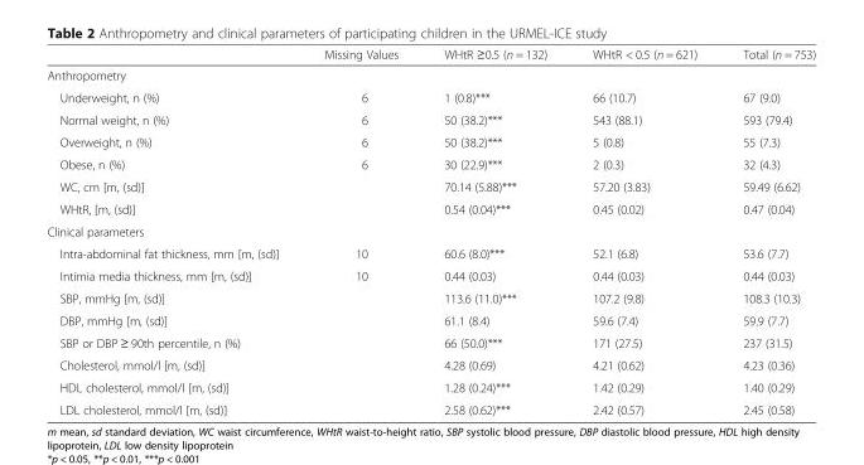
<table><thead><tr><td></td><td>Missing Values</td><td>WHtR ≥0.5 (n = 132)</td><td>WHtR &lt; 0.5 (n = 621)</td><td>Total (n = 753)</td></tr></thead><tbody><tr><td colspan="5">Anthropometry</td></tr><tr><td>Underweight, n (%)</td><td>6</td><td>1 (0.8)***</td><td>66 (10.7)</td><td>67 (9.0)</td></tr><tr><td>Normal weight, n (%)</td><td>6</td><td>50 (38.2)***</td><td>543 (88.1)</td><td>593 (79.4)</td></tr><tr><td>Overweight, n (%)</td><td>6</td><td>50 (38.2)***</td><td>5 (0.8)</td><td>55 (7.3)</td></tr><tr><td>Obese, n (%)</td><td>6</td><td>30 (22.9)***</td><td>2 (0.3)</td><td>32 (4.3)</td></tr><tr><td>WC, cm [m, (sd)]</td><td></td><td>70.14 (5.88)***</td><td>57.20 (3.83)</td><td>59.49 (6.62)</td></tr><tr><td>WHtR, [m, (sd)]</td><td></td><td>0.54 (0.04)***</td><td>0.45 (0.02)</td><td>0.47 (0.04)</td></tr><tr><td colspan="5">Clinical parameters</td></tr><tr><td>Intra-abdominal fat thickness, mm [m, (sd)]</td><td>10</td><td>60.6 (8.0)***</td><td>52.1 (6.8)</td><td>53.6 (7.7)</td></tr><tr><td>Intimia media thickness, mm [m, (sd)]</td><td>10</td><td>0.44 (0.03)</td><td>0.44 (0.03)</td><td>0.44 (0.03)</td></tr><tr><td>SBP, mmHg [m, (sd)]</td><td></td><td>113.6 (11.0)***</td><td>107.2 (9.8)</td><td>108.3 (10.3)</td></tr><tr><td>DBP, mmHg [m, (sd)]</td><td></td><td>61.1 (8.4)</td><td>59.6 (7.4)</td><td>59.9 (7.7)</td></tr><tr><td>SBP or DBP ≥ 90th percentile, n (%)</td><td></td><td>66 (50.0)***</td><td>171 (27.5)</td><td>237 (31.5)</td></tr><tr><td>Cholesterol, mmol/l [m, (sd)]</td><td></td><td>4.28 (0.69)</td><td>4.21 (0.62)</td><td>4.23 (0.36)</td></tr><tr><td>HDL cholesterol, mmol/l [m, (sd)]</td><td></td><td>1.28 (0.24)***</td><td>1.42 (0.29)</td><td>1.40 (0.29)</td></tr><tr><td>LDL cholesterol, mmol/l [m, (sd)]</td><td></td><td>2.58 (0.62)***</td><td>2.42 (0.57)</td><td>2.45 (0.58)</td></tr></tbody></table>